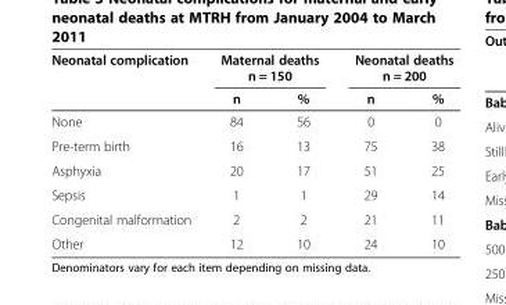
<table><thead><tr><td rowspan="2">Neonatal complication</td><td colspan="2">Maternal deaths n = 150</td><td colspan="2">Neonatal deaths n = 200</td></tr><tr><td>n</td><td>%</td><td>n</td><td>%</td></tr></thead><tbody><tr><td>None</td><td>84</td><td>56</td><td>0</td><td>0</td></tr><tr><td>Pre-term birth</td><td>16</td><td>13</td><td>75</td><td>38</td></tr><tr><td>Asphyxia</td><td>20</td><td>17</td><td>51</td><td>25</td></tr><tr><td>Sepsis</td><td>1</td><td>1</td><td>29</td><td>14</td></tr><tr><td>Congenital malformation</td><td>2</td><td>2</td><td>21</td><td>11</td></tr><tr><td>Other</td><td>12</td><td>10</td><td>24</td><td>10</td></tr></tbody></table>